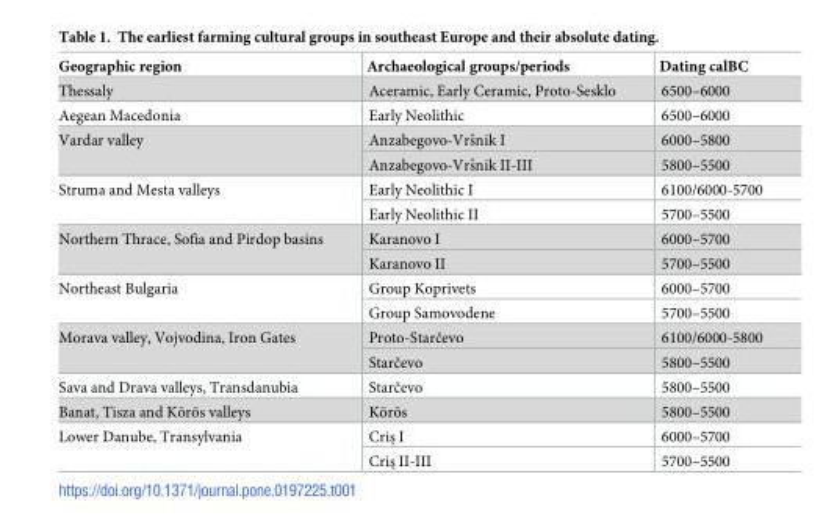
<table><thead><tr><td>Geographic region</td><td>Archaeological groups/periods</td><td>Dating calBC</td></tr></thead><tbody><tr><td>Thessaly</td><td>Aceramic, Early Ceramic, Proto-Sesklo</td><td>6500–6000</td></tr><tr><td>Aegean Macedonia</td><td>Early Neolithic</td><td>6500–6000</td></tr><tr><td rowspan="2">Vardar valley</td><td>Anzabegovo-Vrsˇnik I</td><td>6000–5800</td></tr><tr><td>Anzabegovo-Vrsˇnik II-III</td><td>5800–5500</td></tr><tr><td rowspan="2">Struma and Mesta valleys</td><td>Early Neolithic I</td><td>6100/6000-5700</td></tr><tr><td>Early Neolithic II</td><td>5700–5500</td></tr><tr><td rowspan="2">Northern Thrace, Sofia and Pirdop basins</td><td>Karanovo I</td><td>6000–5700</td></tr><tr><td>Karanovo II</td><td>5700–5500</td></tr><tr><td rowspan="2">Northeast Bulgaria</td><td>Group Koprivets</td><td>6000–5700</td></tr><tr><td>Group Samovodene</td><td>5700–5500</td></tr><tr><td rowspan="2">Morava valley, Vojvodina, Iron Gates</td><td>Proto-Starčevo</td><td>6100/6000-5800</td></tr><tr><td>Starčevo</td><td>5800–5500</td></tr><tr><td>Sava and Drava valleys, Transdanubia</td><td>Starčevo</td><td>5800–5500</td></tr><tr><td>Banat, Tisza and Ko¨ro¨s valleys</td><td>Ko¨ro¨s</td><td>5800–5500</td></tr><tr><td rowspan="2">Lower Danube, Transylvania</td><td>Criș I</td><td>6000–5700</td></tr><tr><td>Criș II-III</td><td>5700–5500</td></tr></tbody></table>